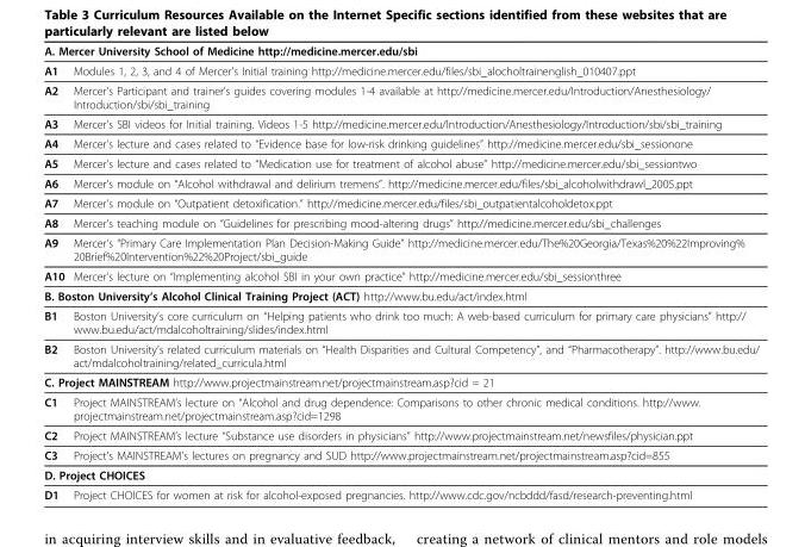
<table><thead><tr><td colspan="2">A. Mercer University School of Medicine http://medicine.mercer.edu/sbi</td></tr><tr><td>A1</td><td>Modules 1, 2, 3, and 4 of Mercer’s Initial training http://medicine.mercer.edu/files/sbi_alocholtrainenglish_010407.ppt</td></tr></thead><tbody><tr><td>A2</td><td>Mercer’s Participant and trainer’s guides covering modules 1-4 available at http://medicine.mercer.edu/Introduction/Anesthesiology/ Introduction/sbi/sbi_training</td></tr><tr><td>A3</td><td>Mercer’s SBI videos for Initial training. Videos 1-5 http://medicine.mercer.edu/Introduction/Anesthesiology/Introduction/sbi/sbi_training</td></tr><tr><td>A4</td><td>Mercer’s lecture and cases related to “Evidence base for low-risk drinking guidelines” http://medicine.mercer.edu/sbi_sessionone</td></tr><tr><td>A5</td><td>Mercer’s lecture and cases related to “Medication use for treatment of alcohol abuse” http://medicine.mercer.edu/sbi_sessiontwo</td></tr><tr><td>A6</td><td>Mercer’s module on “Alcohol withdrawal and delirium tremens”. http://medicine.mercer.edu/files/sbi_alcoholwithdrawl_2005.ppt</td></tr><tr><td>A7</td><td>Mercer’s module on “Outpatient detoxification.” http://medicine.mercer.edu/files/sbi_outpatientalcoholdetox.ppt</td></tr><tr><td>A8</td><td>Mercer’s teaching module on “Guidelines for prescribing mood-altering drugs” http://medicine.mercer.edu/sbi_challenges</td></tr><tr><td>A9</td><td>Mercer’s “Primary Care Implementation Plan Decision-Making Guide” http://medicine.mercer.edu/The%20Georgia/Texas%20%22Improving% 20Brief%20Intervention%22%20Project/sbi_guide</td></tr><tr><td>A10</td><td>Mercer’s lecture on “Implementing alcohol SBI in your own practice” http://medicine.mercer.edu/sbi_sessionthree</td></tr><tr><td colspan="2">B. Boston University’s Alcohol Clinical Training Project (ACT) http://www.bu.edu/act/index.html</td></tr><tr><td>B1</td><td>Boston University’s core curriculum on “Helping patients who drink too much: A web-based curriculum for primary care physicians” http:// www.bu.edu/act/mdalcoholtraining/slides/index.html</td></tr><tr><td>B2</td><td>Boston University’s related curriculum materials on “Health Disparities and Cultural Competency”, and “Pharmacotherapy”. http://www.bu.edu/ act/mdalcoholtraining/related_curricula.html</td></tr><tr><td colspan="2">C. Project MAINSTREAM http://www.projectmainstream.net/projectmainstream.asp?cid = 21</td></tr><tr><td>C1</td><td>Project MAINSTREAM’s lecture on “Alcohol and drug dependence: Comparisons to other chronic medical conditions. http://www. projectmainstream.net/projectmainstream.asp?cid=1298</td></tr><tr><td>C2</td><td>Project MAINSTREAM’s lecture “Substance use disorders in physicians” http://www.projectmainstream.net/newsfiles/physician.ppt</td></tr><tr><td>C3</td><td>Project’s MAINSTREAM’s lectures on pregnancy and SUD http://www.projectmainstream.net/projectmainstream.asp?cid=855</td></tr><tr><td colspan="2">D. Project CHOICES</td></tr><tr><td>D1</td><td>Project CHOICES for women at risk for alcohol-exposed pregnancies. http://www.cdc.gov/ncbddd/fasd/research-preventing.html</td></tr></tbody></table>